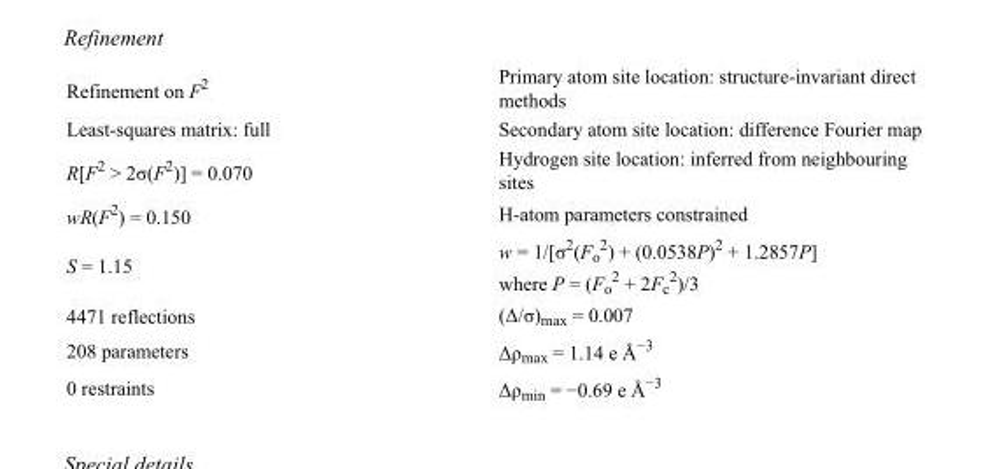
<table><tbody><tr><td>Refinement on F<sup>2</sup></td><td>Primary atom site location: structure-invariant direct methods</td></tr><tr><td>Least-squares matrix: full</td><td>Secondary atom site location: difference Fourier map</td></tr><tr><td>R[F<sup>2</sup> &gt; 2σ(F<sup>2</sup>)] = 0.070</td><td>Hydrogen site location: inferred from neighbouring sites</td></tr><tr><td>wR(F<sup>2</sup>) = 0.150</td><td>H-atom parameters constrained</td></tr><tr><td>S = 1.15</td><td>w = 1/[σ<sup>2</sup>(F<sub>o</sub> <sup>2</sup>) + (0.0538P)<sup>2</sup> + 1.2857P] where P = (F<sub>o</sub> <sup>2</sup> + 2F<sub>c</sub> <sup>2</sup>)/3</td></tr><tr><td>4471 reflections</td><td>(Δ/σ)<sub>max</sub> = 0.007</td></tr><tr><td>208 parameters</td><td>Δρ<sub>max</sub> = 1.14 e Å<sup>−3</sup></td></tr><tr><td>0 restraints</td><td>Δρ<sub>min</sub> = −0.69 e Å<sup>−3</sup></td></tr></tbody></table>